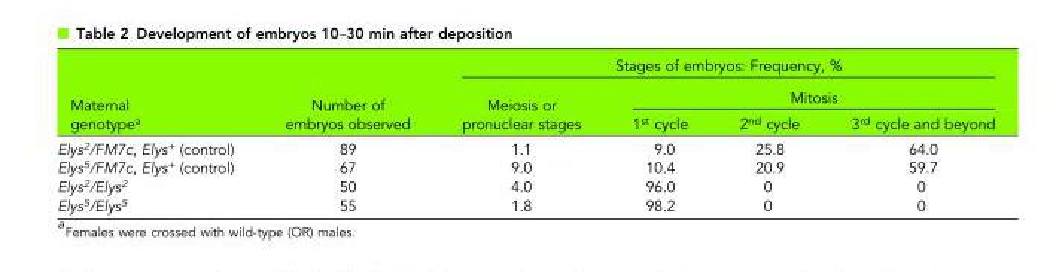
<table><thead><tr><td rowspan="3">Maternal genotype<sup>a</sup></td><td rowspan="3">Number of embryos observed</td><td colspan="4">Stages of embryos: Frequency, %</td></tr><tr><td rowspan="2">Meiosis or pronuclear stages</td><td colspan="3">Mitosis</td></tr><tr><td>1<sup>st</sup> cycle</td><td>2<sup>nd</sup> cycle</td><td>3<sup>rd</sup> cycle and beyond</td></tr></thead><tbody><tr><td>Elys<sup>2</sup>/FM7c, Elys<sup>+</sup> (control)</td><td>89</td><td>1.1</td><td>9.0</td><td>25.8</td><td>64.0</td></tr><tr><td>Elys<sup>5</sup>/FM7c, Elys<sup>+</sup> (control)</td><td>67</td><td>9.0</td><td>10.4</td><td>20.9</td><td>59.7</td></tr><tr><td>Elys<sup>2</sup>/Elys<sup>2</sup></td><td>50</td><td>4.0</td><td>96.0</td><td>0</td><td>0</td></tr><tr><td>Elys<sup>5</sup>/Elys<sup>5</sup></td><td>55</td><td>1.8</td><td>98.2</td><td>0</td><td>0</td></tr></tbody></table>